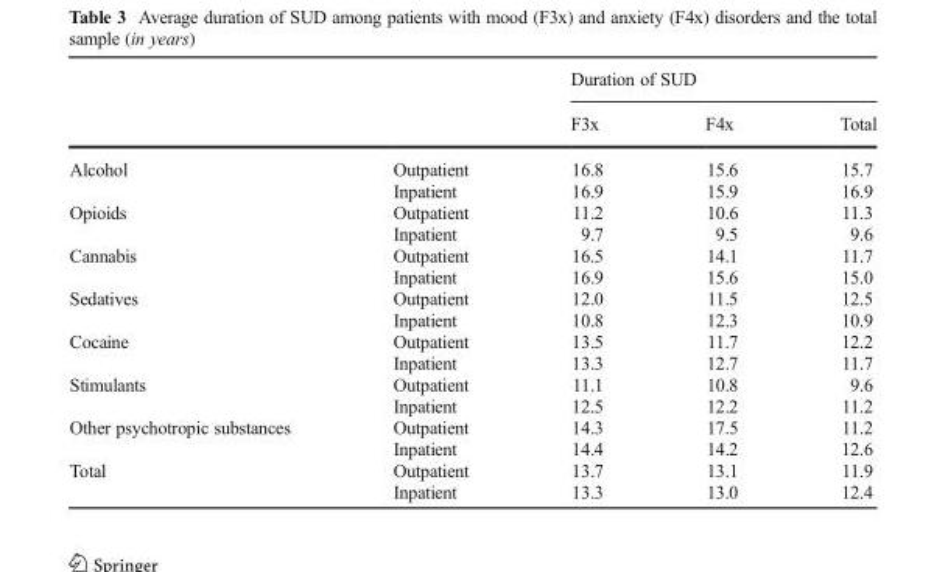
<table><thead><tr><td rowspan="2"></td><td rowspan="2"></td><td colspan="3">Duration of SUD</td></tr><tr><td>F3x</td><td>F4x</td><td>Total</td></tr></thead><tbody><tr><td rowspan="2">Alcohol</td><td>Outpatient</td><td>16.8</td><td>15.6</td><td>15.7</td></tr><tr><td>Inpatient</td><td>16.9</td><td>15.9</td><td>16.9</td></tr><tr><td rowspan="2">Opioids</td><td>Outpatient</td><td>11.2</td><td>10.6</td><td>11.3</td></tr><tr><td>Inpatient</td><td>9.7</td><td>9.5</td><td>9.6</td></tr><tr><td rowspan="2">Cannabis</td><td>Outpatient</td><td>16.5</td><td>14.1</td><td>11.7</td></tr><tr><td>Inpatient</td><td>16.9</td><td>15.6</td><td>15.0</td></tr><tr><td rowspan="2">Sedatives</td><td>Outpatient</td><td>12.0</td><td>11.5</td><td>12.5</td></tr><tr><td>Inpatient</td><td>10.8</td><td>12.3</td><td>10.9</td></tr><tr><td rowspan="2">Cocaine</td><td>Outpatient</td><td>13.5</td><td>11.7</td><td>12.2</td></tr><tr><td>Inpatient</td><td>13.3</td><td>12.7</td><td>11.7</td></tr><tr><td rowspan="2">Stimulants</td><td>Outpatient</td><td>11.1</td><td>10.8</td><td>9.6</td></tr><tr><td>Inpatient</td><td>12.5</td><td>12.2</td><td>11.2</td></tr><tr><td rowspan="2">Other psychotropic substances</td><td>Outpatient</td><td>14.3</td><td>17.5</td><td>11.2</td></tr><tr><td>Inpatient</td><td>14.4</td><td>14.2</td><td>12.6</td></tr><tr><td rowspan="2">Total</td><td>Outpatient</td><td>13.7</td><td>13.1</td><td>11.9</td></tr><tr><td>Inpatient</td><td>13.3</td><td>13.0</td><td>12.4</td></tr></tbody></table>